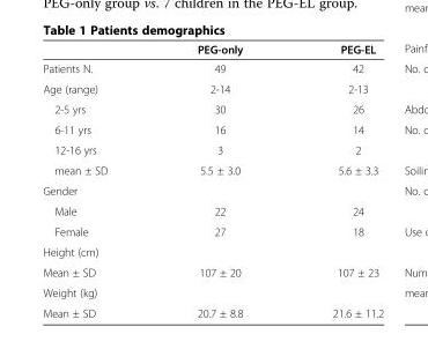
<table><thead><tr><td></td><td>PEG-only</td><td>PEG-EL</td></tr></thead><tbody><tr><td>Patients N.</td><td>49</td><td>42</td></tr><tr><td>Age (range)</td><td>2-14</td><td>2-13</td></tr><tr><td>2-5 yrs</td><td>30</td><td>26</td></tr><tr><td>6-11 yrs</td><td>16</td><td>14</td></tr><tr><td>12-16 yrs</td><td>3</td><td>2</td></tr><tr><td>mean ± SD</td><td>5.5 ± 3.0</td><td>5.6 ± 3.3</td></tr><tr><td colspan="3">Gender</td></tr><tr><td>Male</td><td>22</td><td>24</td></tr><tr><td>Female</td><td>27</td><td>18</td></tr><tr><td colspan="3">Height (cm)</td></tr><tr><td>Mean ± SD</td><td>107 ± 20</td><td>107 ± 23</td></tr><tr><td colspan="3">Weight (kg)</td></tr><tr><td>Mean ± SD</td><td>20.7 ± 8.8</td><td>21.6 ± 11.2</td></tr></tbody></table>